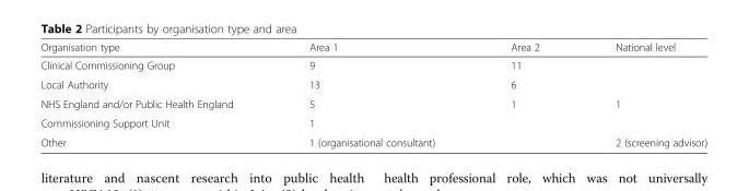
<table><thead><tr><td>Organisation type</td><td>Area 1</td><td>Area 2</td><td>National level</td></tr></thead><tbody><tr><td>Clinical Commissioning Group</td><td>9</td><td>11</td><td></td></tr><tr><td>Local Authority</td><td>13</td><td>6</td><td></td></tr><tr><td>NHS England and/or Public Health England</td><td>5</td><td>1</td><td>1</td></tr><tr><td>Commissioning Support Unit</td><td>1</td><td></td><td></td></tr><tr><td>Other</td><td>1 (organisational consultant)</td><td></td><td>2 (screening advisor)</td></tr></tbody></table>